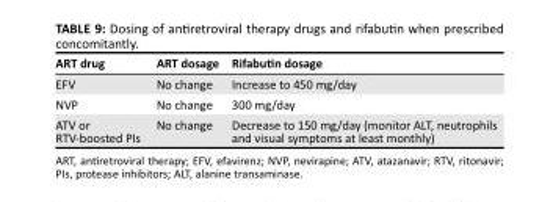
<table><thead><tr><td>ART drug</td><td>ART dosage</td><td>Rifabutin dosage</td></tr></thead><tbody><tr><td>EFV</td><td>No change</td><td>Increase to 450 mg/day</td></tr><tr><td>NVP</td><td>No change</td><td>300 mg/day</td></tr><tr><td>ATV or RTV-boosted PIs</td><td>No change</td><td>Decrease to 150 mg/day (monitor ALT, neutrophils and visual symptoms at least monthly)</td></tr></tbody></table>